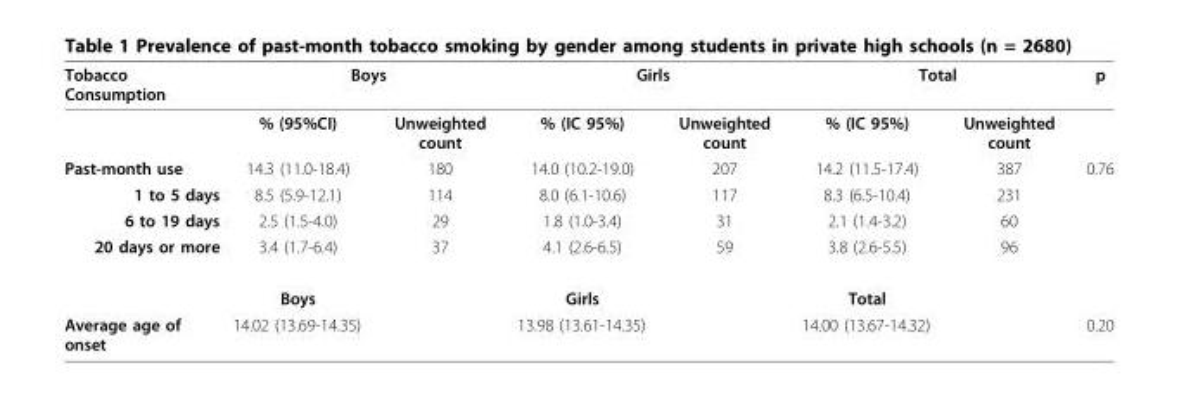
<table><thead><tr><td rowspan="2">Tobacco Consumption</td><td colspan="2">Boys</td><td colspan="2">Girls</td><td colspan="2">Total</td><td rowspan="2">p</td></tr><tr><td>% (95%CI)</td><td>Unweighted count</td><td>% (IC 95%)</td><td>Unweighted count</td><td>% (IC 95%)</td><td>Unweighted count</td></tr></thead><tbody><tr><td>Past-month use</td><td>14.3 (11.0-18.4)</td><td>180</td><td>14.0 (10.2-19.0)</td><td>207</td><td>14.2 (11.5-17.4)</td><td>387</td><td>0.76</td></tr><tr><td>1 to 5 days</td><td>8.5 (5.9-12.1)</td><td>114</td><td>8.0 (6.1-10.6)</td><td>117</td><td>8.3 (6.5-10.4)</td><td>231</td><td></td></tr><tr><td>6 to 19 days</td><td>2.5 (1.5-4.0)</td><td>29</td><td>1.8 (1.0-3.4)</td><td>31</td><td>2.1 (1.4-3.2)</td><td>60</td><td></td></tr><tr><td rowspan="2">20 days or more</td><td>3.4 (1.7-6.4)</td><td>37</td><td>4.1 (2.6-6.5)</td><td>59</td><td>3.8 (2.6-5.5)</td><td>96</td><td></td></tr><tr><td>Boys</td><td></td><td>Girls</td><td></td><td>Total</td><td></td><td></td></tr><tr><td>Average age of onset</td><td>14.02 (13.69-14.35)</td><td></td><td>13.98 (13.61-14.35)</td><td></td><td>14.00 (13.67-14.32)</td><td></td><td>0.20</td></tr></tbody></table>